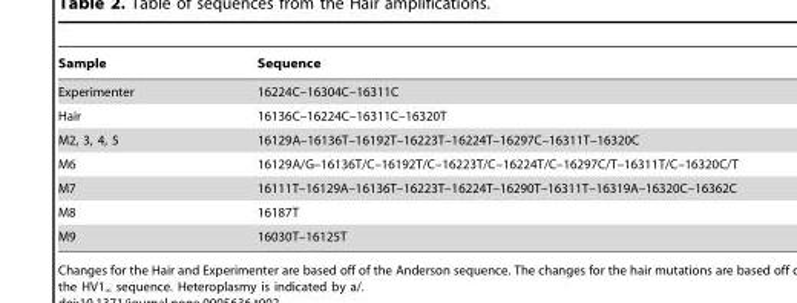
<table><thead><tr><td>Sample</td><td>Sequence</td></tr></thead><tbody><tr><td>Experimenter</td><td>16224C–16304C–16311C</td></tr><tr><td>Hair</td><td>16136C–16224C–16311C–16320T</td></tr><tr><td>M2, 3, 4, 5</td><td>16129A–16136T–16192T–16223T–16224T–16297C–16311T–16320C</td></tr><tr><td>M6</td><td>16129A/G–16136T/C–16192T/C–16223T/C–16224T/C–16297C/T–16311T/C–16320C/T</td></tr><tr><td>M7</td><td>16111T–16129A–16136T–16223T–16224T–16290T–16311T–16319A–16320C–16362C</td></tr><tr><td>M8</td><td>16187T</td></tr><tr><td>M9</td><td>16030T–16125T</td></tr></tbody></table>